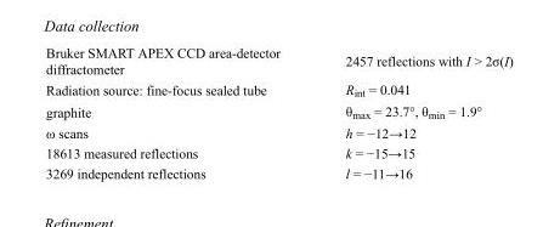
<table><tbody><tr><td>Bruker SMART APEX CCD area-detector diffractometer</td><td>2457 reflections with I &gt; 2σ(I)</td></tr><tr><td>Radiation source: fine-focus sealed tube</td><td>R<sub>int</sub> = 0.041</td></tr><tr><td>graphite</td><td>θ<sub>max</sub> = 23.7°, θ<sub>min</sub> = 1.9°</td></tr><tr><td>ω scans</td><td>h = −12→12</td></tr><tr><td>18613 measured reflections</td><td>k = −15→15</td></tr><tr><td>3269 independent reflections</td><td>l = −11→16</td></tr></tbody></table>